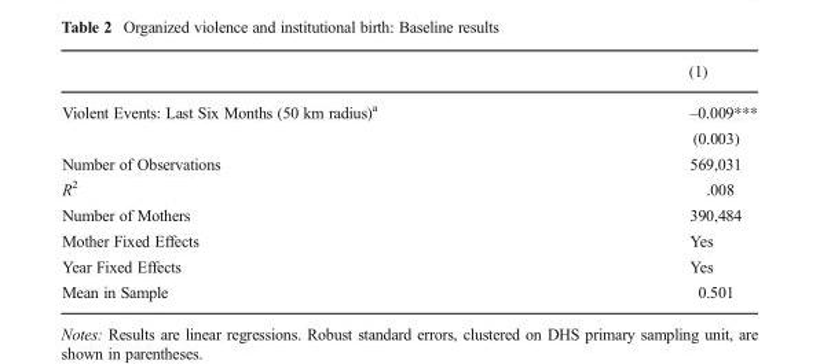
<table><thead><tr><td></td><td>(1)</td></tr></thead><tbody><tr><td rowspan="2">Violent Events: Last Six Months (50 km radius)<sup>a</sup></td><td>–0.009***</td></tr><tr><td>(0.003)</td></tr><tr><td>Number of Observations</td><td>569,031</td></tr><tr><td>R<sup>2</sup></td><td>.008</td></tr><tr><td>Number of Mothers</td><td>390,484</td></tr><tr><td>Mother Fixed Effects</td><td>Yes</td></tr><tr><td>Year Fixed Effects</td><td>Yes</td></tr><tr><td>Mean in Sample</td><td>0.501</td></tr></tbody></table>